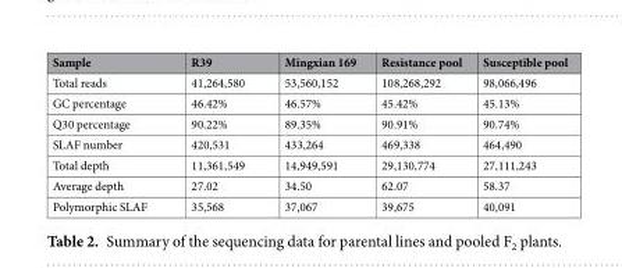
<table><thead><tr><td>Sample</td><td>R39</td><td>Mingxian 169</td><td>Resistance pool</td><td>Susceptible pool</td></tr></thead><tbody><tr><td>Total reads</td><td>41,264,580</td><td>53,560,152</td><td>108,268,292</td><td>98,066,496</td></tr><tr><td>GC percentage</td><td>46.42%</td><td>46.57%</td><td>45.42%</td><td>45.13%</td></tr><tr><td>Q30 percentage</td><td>90.22%</td><td>89.35%</td><td>90.91%</td><td>90.74%</td></tr><tr><td>SLAF number</td><td>420,531</td><td>433,264</td><td>469,338</td><td>464,490</td></tr><tr><td>Total depth</td><td>11,361,549</td><td>14,949,591</td><td>29,130,774</td><td>27,111,243</td></tr><tr><td>Average depth</td><td>27.02</td><td>34.50</td><td>62.07</td><td>58.37</td></tr><tr><td>Polymorphic SLAF</td><td>35,568</td><td>37,067</td><td>39,675</td><td>40,091</td></tr></tbody></table>